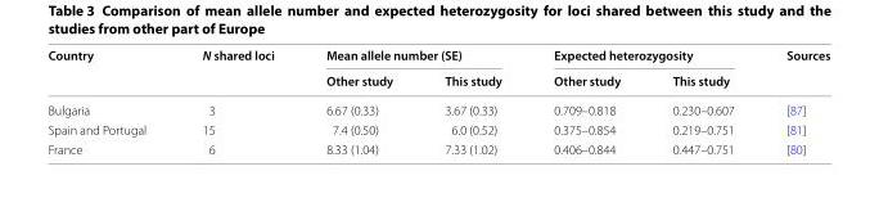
<table><thead><tr><td rowspan="2">Country</td><td rowspan="2">N shared loci</td><td colspan="2">Mean allele number (SE)</td><td colspan="2">Expected heterozygosity</td><td rowspan="2">Sources</td></tr><tr><td>Other study</td><td>This study</td><td>Other study</td><td>This study</td></tr></thead><tbody><tr><td>Bulgaria</td><td>3</td><td>6.67 (0.33)</td><td>3.67 (0.33)</td><td>0.709–0.818</td><td>0.230–0.607</td><td>[87]</td></tr><tr><td>Spain and Portugal</td><td>15</td><td>7.4 (0.50)</td><td>6.0 (0.52)</td><td>0.375–0.854</td><td>0.219–0.751</td><td>[81]</td></tr><tr><td>France</td><td>6</td><td>8.33 (1.04)</td><td>7.33 (1.02)</td><td>0.406–0.844</td><td>0.447–0.751</td><td>[80]</td></tr></tbody></table>